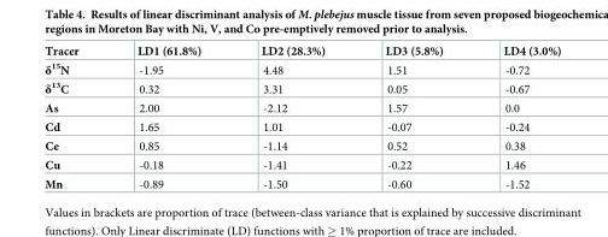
<table><thead><tr><td>Tracer</td><td>LD1 (61.8%)</td><td>LD2 (28.3%)</td><td>LD3 (5.8%)</td><td>LD4 (3.0%)</td></tr></thead><tbody><tr><td>δ<sup>15</sup>N</td><td>-1.95</td><td>4.48</td><td>1.51</td><td>-0.72</td></tr><tr><td>δ<sup>13</sup>C</td><td>0.32</td><td>3.31</td><td>0.05</td><td>-0.67</td></tr><tr><td>As</td><td>2.00</td><td>-2.12</td><td>1.57</td><td>0.0</td></tr><tr><td>Cd</td><td>1.65</td><td>1.01</td><td>-0.07</td><td>-0.24</td></tr><tr><td>Ce</td><td>0.85</td><td>-1.14</td><td>0.52</td><td>0.38</td></tr><tr><td>Cu</td><td>-0.18</td><td>-1.41</td><td>-0.22</td><td>1.46</td></tr><tr><td>Mn</td><td>-0.89</td><td>-1.50</td><td>-0.60</td><td>-1.52</td></tr></tbody></table>